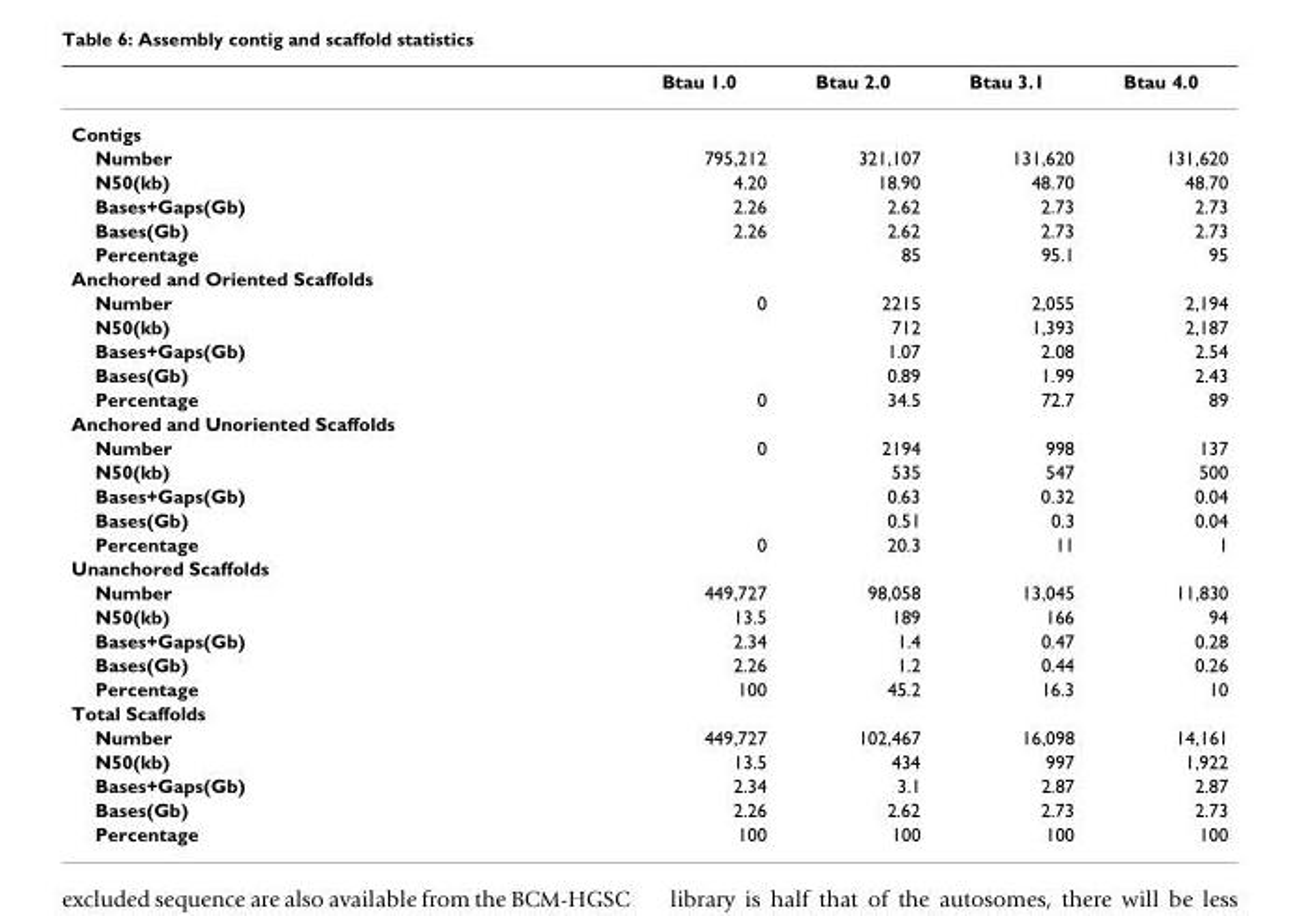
<table><thead><tr><td></td><td>Btau 1.0</td><td>Btau 2.0</td><td>Btau 3.1</td><td>Btau 4.0</td></tr></thead><tbody><tr><td colspan="5">Contigs</td></tr><tr><td>Number</td><td>795,212</td><td>321,107</td><td>131,620</td><td>131,620</td></tr><tr><td>N50(kb)</td><td>4.20</td><td>18.90</td><td>48.70</td><td>48.70</td></tr><tr><td>Bases+Gaps(Gb)</td><td>2.26</td><td>2.62</td><td>2.73</td><td>2.73</td></tr><tr><td>Bases(Gb)</td><td>2.26</td><td>2.62</td><td>2.73</td><td>2.73</td></tr><tr><td>Percentage</td><td></td><td>85</td><td>95.1</td><td>95</td></tr><tr><td colspan="5">Anchored and Oriented Scaffolds</td></tr><tr><td>Number</td><td>0</td><td>2215</td><td>2,055</td><td>2,194</td></tr><tr><td>N50(kb)</td><td></td><td>712</td><td>1,393</td><td>2,187</td></tr><tr><td>Bases+Gaps(Gb)</td><td></td><td>1.07</td><td>2.08</td><td>2.54</td></tr><tr><td>Bases(Gb)</td><td></td><td>0.89</td><td>1.99</td><td>2.43</td></tr><tr><td>Percentage</td><td>0</td><td>34.5</td><td>72.7</td><td>89</td></tr><tr><td colspan="5">Anchored and Unoriented Scaffolds</td></tr><tr><td>Number</td><td>0</td><td>2194</td><td>998</td><td>137</td></tr><tr><td>N50(kb)</td><td></td><td>535</td><td>547</td><td>500</td></tr><tr><td>Bases+Gaps(Gb)</td><td></td><td>0.63</td><td>0.32</td><td>0.04</td></tr><tr><td>Bases(Gb)</td><td></td><td>0.51</td><td>0.3</td><td>0.04</td></tr><tr><td>Percentage</td><td>0</td><td>20.3</td><td>11</td><td>1</td></tr><tr><td colspan="5">Unanchored Scaffolds</td></tr><tr><td>Number</td><td>449,727</td><td>98,058</td><td>13,045</td><td>11,830</td></tr><tr><td>N50(kb)</td><td>13.5</td><td>189</td><td>166</td><td>94</td></tr><tr><td>Bases+Gaps(Gb)</td><td>2.34</td><td>1.4</td><td>0.47</td><td>0.28</td></tr><tr><td>Bases(Gb)</td><td>2.26</td><td>1.2</td><td>0.44</td><td>0.26</td></tr><tr><td>Percentage</td><td>100</td><td>45.2</td><td>16.3</td><td>10</td></tr><tr><td colspan="5">Total Scaffolds</td></tr><tr><td>Number</td><td>449,727</td><td>102,467</td><td>16,098</td><td>14,161</td></tr><tr><td>N50(kb)</td><td>13.5</td><td>434</td><td>997</td><td>1,922</td></tr><tr><td>Bases+Gaps(Gb)</td><td>2.34</td><td>3.1</td><td>2.87</td><td>2.87</td></tr><tr><td>Bases(Gb)</td><td>2.26</td><td>2.62</td><td>2.73</td><td>2.73</td></tr><tr><td>Percentage</td><td>100</td><td>100</td><td>100</td><td>100</td></tr></tbody></table>